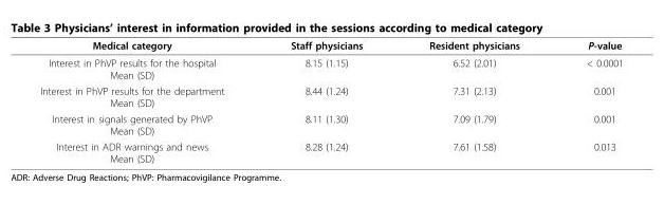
<table><thead><tr><td>Medical category</td><td>Staff physicians</td><td>Resident physicians</td><td>P-value</td></tr></thead><tbody><tr><td>Interest in PhVP results for the hospital Mean (SD)</td><td>8.15 (1.15)</td><td>6.52 (2.01)</td><td>&lt; 0.0001</td></tr><tr><td>Interest in PhVP results for the department Mean (SD)</td><td>8.44 (1.24)</td><td>7.31 (2.13)</td><td>0.001</td></tr><tr><td>Interest in signals generated by PhVP Mean (SD)</td><td>8.11 (1.30)</td><td>7.09 (1.79)</td><td>0.001</td></tr><tr><td>Interest in ADR warnings and news Mean (SD)</td><td>8.28 (1.24)</td><td>7.61 (1.58)</td><td>0.013</td></tr></tbody></table>